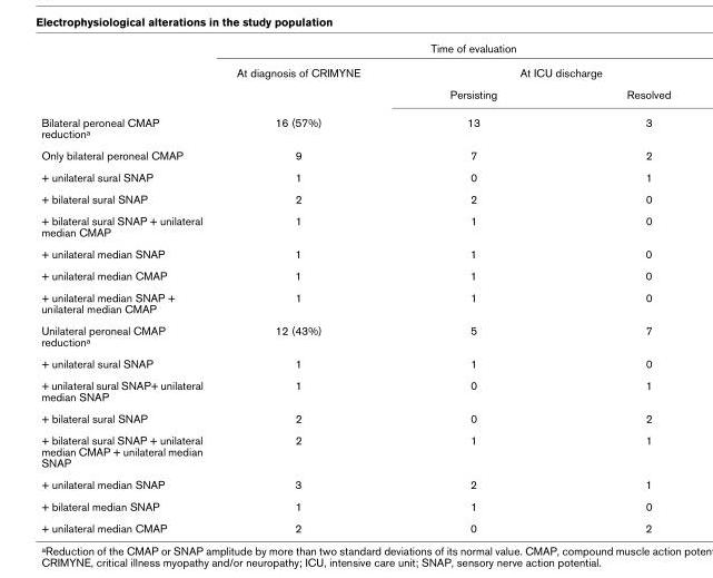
<table><thead><tr><td rowspan="3"></td><td colspan="3">Time of evaluation</td></tr><tr><td rowspan="2">At diagnosis of CRIMYNE</td><td colspan="2">At ICU discharge</td></tr><tr><td>Persisting</td><td>Resolved</td></tr></thead><tbody><tr><td>Bilateral peroneal CMAP reduction<sup>a</sup></td><td>16 (57%)</td><td>13</td><td>3</td></tr><tr><td>Only bilateral peroneal CMAP</td><td>9</td><td>7</td><td>2</td></tr><tr><td>+ unilateral sural SNAP</td><td>1</td><td>0</td><td>1</td></tr><tr><td>+ bilateral sural SNAP</td><td>2</td><td>2</td><td>0</td></tr><tr><td>+ bilateral sural SNAP + unilateral median CMAP</td><td>1</td><td>1</td><td>0</td></tr><tr><td>+ unilateral median SNAP</td><td>1</td><td>1</td><td>0</td></tr><tr><td>+ unilateral median CMAP</td><td>1</td><td>1</td><td>0</td></tr><tr><td>+ unilateral median SNAP + unilateral median CMAP</td><td>1</td><td>1</td><td>0</td></tr><tr><td>Unilateral peroneal CMAP reduction<sup>a</sup></td><td>12 (43%)</td><td>5</td><td>7</td></tr><tr><td>+ unilateral sural SNAP</td><td>1</td><td>1</td><td>0</td></tr><tr><td>+ unilateral sural SNAP+ unilateral median SNAP</td><td>1</td><td>0</td><td>1</td></tr><tr><td>+ bilateral sural SNAP</td><td>2</td><td>0</td><td>2</td></tr><tr><td>+ bilateral sural SNAP + unilateral median CMAP + unilateral median SNAP</td><td>2</td><td>1</td><td>1</td></tr><tr><td>+ unilateral median SNAP</td><td>3</td><td>2</td><td>1</td></tr><tr><td>+ bilateral median SNAP</td><td>1</td><td>1</td><td>0</td></tr><tr><td>+ unilateral median CMAP</td><td>2</td><td>0</td><td>2</td></tr></tbody></table>